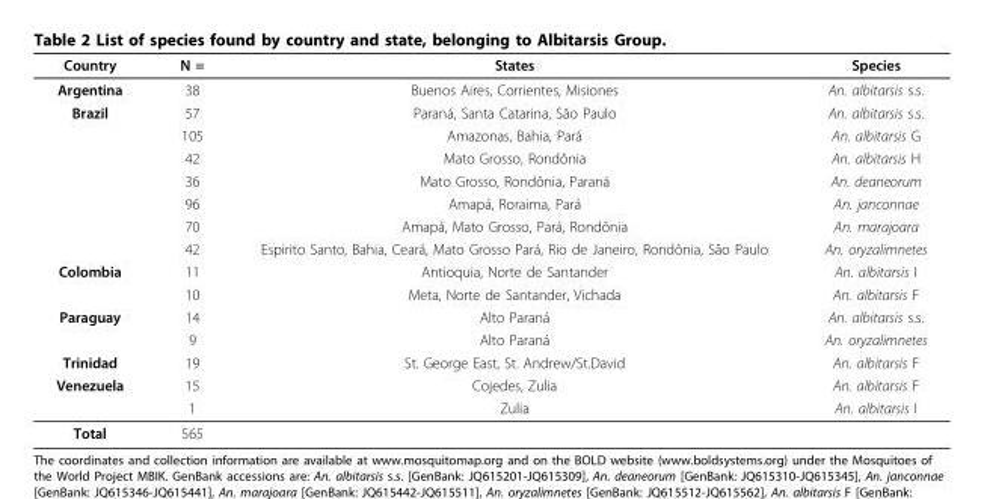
<table><thead><tr><td>Country</td><td>N =</td><td>States</td><td>Species</td></tr></thead><tbody><tr><td>Argentina</td><td>38</td><td>Buenos Aires, Corrientes, Misiones</td><td>An. albitarsis s.s.</td></tr><tr><td rowspan="7">Brazil</td><td>57</td><td>Paraná, Santa Catarina, São Paulo</td><td>An. albitarsis s.s.</td></tr><tr><td>105</td><td>Amazonas, Bahia, Pará</td><td>An. albitarsis G</td></tr><tr><td>42</td><td>Mato Grosso, Rondônia</td><td>An. albitarsis H</td></tr><tr><td>36</td><td>Mato Grosso, Rondônia, Paraná</td><td>An. deaneorum</td></tr><tr><td>96</td><td>Amapá, Roraima, Pará</td><td>An. janconnae</td></tr><tr><td>70</td><td>Amapá, Mato Grosso, Pará, Rondônia</td><td>An. marajoara</td></tr><tr><td>42</td><td>Espirito Santo, Bahia, Ceará, Mato Grosso Pará, Rio de Janeiro, Rondônia, São Paulo</td><td>An. oryzalimnetes</td></tr><tr><td rowspan="2">Colombia</td><td>11</td><td>Antioquia, Norte de Santander</td><td>An. albitarsis I</td></tr><tr><td>10</td><td>Meta, Norte de Santander, Vichada</td><td>An. albitarsis F</td></tr><tr><td rowspan="2">Paraguay</td><td>14</td><td>Alto Paraná</td><td>An. albitarsis s.s.</td></tr><tr><td>9</td><td>Alto Paraná</td><td>An. oryzalimnetes</td></tr><tr><td>Trinidad</td><td>19</td><td>St. George East, St. Andrew/St.David</td><td>An. albitarsis F</td></tr><tr><td rowspan="2">Venezuela</td><td>15</td><td>Cojedes, Zulia</td><td>An. albitarsis F</td></tr><tr><td>1</td><td>Zulia</td><td>An. albitarsis I</td></tr><tr><td>Total</td><td>565</td><td></td><td></td></tr></tbody></table>